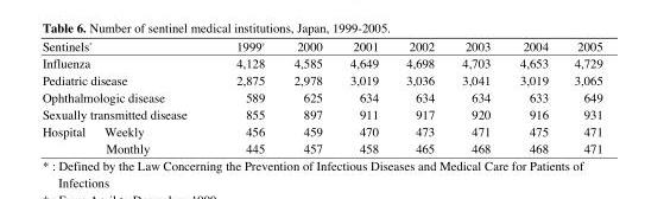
<table><thead><tr><td>Sentinels*</td><td>1999†</td><td>2000</td><td>2001</td><td>2002</td><td>2003</td><td>2004</td><td>2005</td></tr></thead><tbody><tr><td>Influenza</td><td>4,128</td><td>4,585</td><td>4,649</td><td>4,698</td><td>4,703</td><td>4,653</td><td>4,729</td></tr><tr><td>Pediatric disease</td><td>2,875</td><td>2,978</td><td>3,019</td><td>3,036</td><td>3,041</td><td>3,019</td><td>3,065</td></tr><tr><td>Ophthalmologic disease</td><td>589</td><td>625</td><td>634</td><td>634</td><td>634</td><td>633</td><td>649</td></tr><tr><td>Sexually transmitted disease</td><td>855</td><td>897</td><td>911</td><td>917</td><td>920</td><td>916</td><td>931</td></tr><tr><td>Hospital Weekly</td><td>456</td><td>459</td><td>470</td><td>473</td><td>471</td><td>475</td><td>471</td></tr><tr><td>Monthly</td><td>445</td><td>457</td><td>458</td><td>465</td><td>468</td><td>468</td><td>471</td></tr></tbody></table>